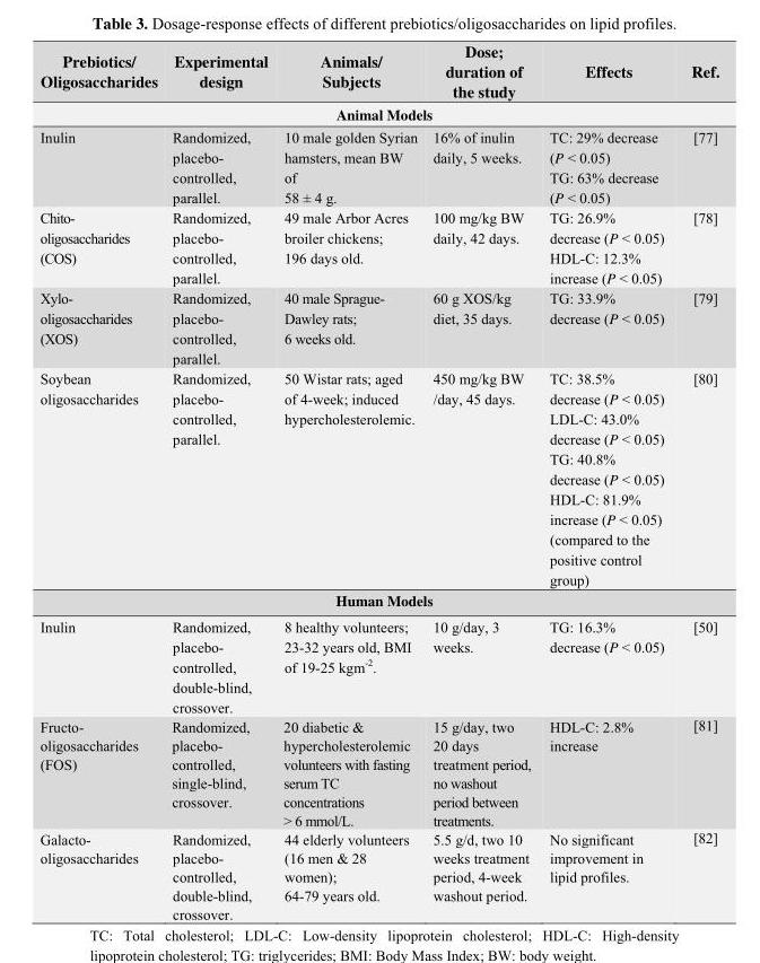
<table><thead><tr><td>Prebiotics/ Oligosaccharides</td><td>Experimental design</td><td>Animals/ Subjects</td><td>Dose; duration of the study</td><td>Effects</td><td>Ref.</td></tr></thead><tbody><tr><td colspan="6">Animal Models</td></tr><tr><td>Inulin</td><td>Randomized, placebo- controlled, parallel.</td><td>10 male golden Syrian hamsters, mean BW of 58 ± 4 g.</td><td>16% of inulin daily, 5 weeks.</td><td>TC: 29% decrease (P &lt; 0.05) TG: 63% decrease (P &lt; 0.05)</td><td>[77]</td></tr><tr><td>Chito- oligosaccharides (COS)</td><td>Randomized, placebo- controlled, parallel.</td><td>49 male Arbor Acres broiler chickens; 196 days old.</td><td>100 mg/kg BW daily, 42 days.</td><td>TG: 26.9% decrease (P &lt; 0.05) HDL-C: 12.3% increase (P &lt; 0.05)</td><td>[78]</td></tr><tr><td>Xylo- oligosaccharides (XOS)</td><td>Randomized, placebo- controlled, parallel.</td><td>40 male Sprague- Dawley rats; 6 weeks old.</td><td>60 g XOS/kg diet, 35 days.</td><td>TG: 33.9% decrease (P &lt; 0.05)</td><td>[79]</td></tr><tr><td>Soybean oligosaccharides</td><td>Randomized, placebo- controlled, parallel.</td><td>50 Wistar rats; aged of 4-week; induced hypercholesterolemic.</td><td>450 mg/kg BW /day, 45 days.</td><td>TC: 38.5% decrease (P &lt; 0.05) LDL-C: 43.0% decrease (P &lt; 0.05) TG: 40.8% decrease (P &lt; 0.05) HDL-C: 81.9% increase (P &lt; 0.05) (compared to the positive control group)</td><td>[80]</td></tr><tr><td colspan="6">Human Models</td></tr><tr><td>Inulin</td><td>Randomized, placebo- controlled, double-blind, crossover.</td><td>8 healthy volunteers; 23-32 years old, BMI of 19-25 kgm<sup>-2</sup>.</td><td>10 g/day, 3 weeks.</td><td>TG: 16.3% decrease (P &lt; 0.05)</td><td>[50]</td></tr><tr><td>Fructo- oligosaccharides (FOS)</td><td>Randomized, placebo- controlled, single-blind, crossover.</td><td>20 diabetic &amp; hypercholesterolemic volunteers with fasting serum TC concentrations &gt; 6 mmol/L.</td><td>15 g/day, two 20 days treatment period, no washout period between treatments.</td><td>HDL-C: 2.8% increase</td><td>[81]</td></tr><tr><td>Galacto- oligosaccharides</td><td>Randomized, placebo- controlled, double-blind, crossover.</td><td>44 elderly volunteers (16 men &amp; 28 women); 64-79 years old.</td><td>5.5 g/d, two 10 weeks treatment period, 4-week washout period.</td><td>No significant improvement in lipid profiles.</td><td>[82]</td></tr></tbody></table>